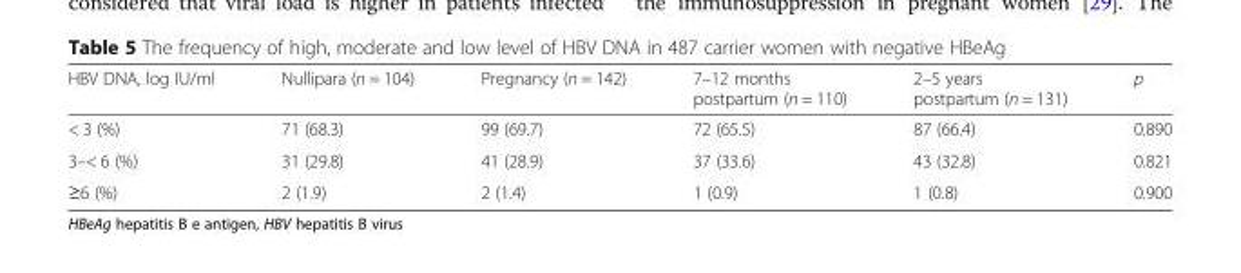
<table><thead><tr><td>HBV DNA, log IU/ml</td><td>Nullipara (n = 104)</td><td>Pregnancy (n = 142)</td><td>7–12 months postpartum (n = 110)</td><td>2–5 years postpartum (n = 131)</td><td>p</td></tr></thead><tbody><tr><td>&lt; 3 (%)</td><td>71 (68.3)</td><td>99 (69.7)</td><td>72 (65.5)</td><td>87 (66.4)</td><td>0.890</td></tr><tr><td>3–&lt; 6 (%)</td><td>31 (29.8)</td><td>41 (28.9)</td><td>37 (33.6)</td><td>43 (32.8)</td><td>0.821</td></tr><tr><td>≥6 (%)</td><td>2 (1.9)</td><td>2 (1.4)</td><td>1 (0.9)</td><td>1 (0.8)</td><td>0.900</td></tr></tbody></table>